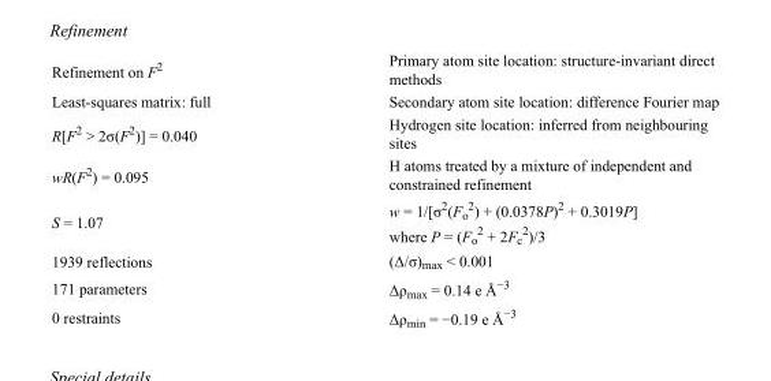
<table><tbody><tr><td>Refinement on F<sup>2</sup></td><td>Primary atom site location: structure-invariant direct methods</td></tr><tr><td>Least-squares matrix: full</td><td>Secondary atom site location: difference Fourier map</td></tr><tr><td>R[F<sup>2</sup> &gt; 2σ(F<sup>2</sup>)] = 0.040</td><td>Hydrogen site location: inferred from neighbouring sites</td></tr><tr><td>wR(F<sup>2</sup>) = 0.095</td><td>H atoms treated by a mixture of independent and constrained refinement</td></tr><tr><td>S = 1.07</td><td>w = 1/[σ<sup>2</sup>(F<sub>o</sub> <sup>2</sup>) + (0.0378P)<sup>2</sup> + 0.3019P] where P = (F<sub>o</sub> <sup>2</sup> + 2F<sub>c</sub> <sup>2</sup>)/3</td></tr><tr><td>1939 reflections</td><td>(Δ/σ)<sub>max</sub> &lt; 0.001</td></tr><tr><td>171 parameters</td><td>Δρ<sub>max</sub> = 0.14 e Å<sup>−3</sup></td></tr><tr><td>0 restraints</td><td>Δρ<sub>min</sub> = −0.19 e Å<sup>−3</sup></td></tr></tbody></table>